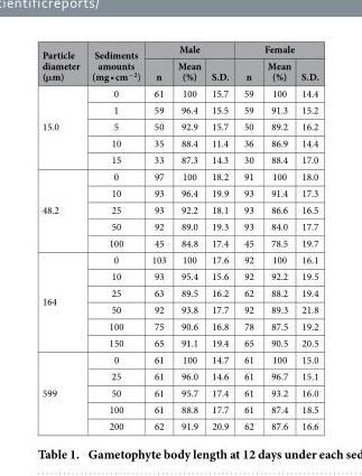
<table><thead><tr><td rowspan="2">Particle diameter (μm)</td><td rowspan="2">Sediments amounts (mg • cm<sup>−2</sup>)</td><td colspan="3">Male</td><td colspan="3">Female</td></tr><tr><td>n</td><td>Mean (%)</td><td>S.D.</td><td>n</td><td>Mean (%)</td><td>S.D.</td></tr></thead><tbody><tr><td rowspan="5">15.0</td><td>0</td><td>61</td><td>100</td><td>15.7</td><td>59</td><td>100</td><td>14.4</td></tr><tr><td>1</td><td>59</td><td>96.4</td><td>15.5</td><td>59</td><td>91.3</td><td>15.2</td></tr><tr><td>5</td><td>50</td><td>92.9</td><td>15.7</td><td>50</td><td>89.2</td><td>16.2</td></tr><tr><td>10</td><td>35</td><td>88.4</td><td>11.4</td><td>36</td><td>86.9</td><td>14.4</td></tr><tr><td>15</td><td>33</td><td>87.3</td><td>14.3</td><td>30</td><td>88.4</td><td>17.0</td></tr><tr><td rowspan="5">48.2</td><td>0</td><td>97</td><td>100</td><td>18.2</td><td>91</td><td>100</td><td>18.0</td></tr><tr><td>10</td><td>93</td><td>96.4</td><td>19.9</td><td>93</td><td>91.4</td><td>17.3</td></tr><tr><td>25</td><td>93</td><td>92.2</td><td>18.1</td><td>93</td><td>86.6</td><td>16.5</td></tr><tr><td>50</td><td>92</td><td>89.0</td><td>19.3</td><td>93</td><td>84.0</td><td>17.7</td></tr><tr><td>100</td><td>45</td><td>84.8</td><td>17.4</td><td>45</td><td>78.5</td><td>19.7</td></tr><tr><td rowspan="6">164</td><td>0</td><td>103</td><td>100</td><td>17.6</td><td>92</td><td>100</td><td>16.1</td></tr><tr><td>10</td><td>93</td><td>95.4</td><td>15.6</td><td>92</td><td>92.2</td><td>19.5</td></tr><tr><td>25</td><td>63</td><td>89.5</td><td>16.2</td><td>62</td><td>88.2</td><td>19.4</td></tr><tr><td>50</td><td>92</td><td>93.8</td><td>17.7</td><td>92</td><td>89.3</td><td>21.8</td></tr><tr><td>100</td><td>75</td><td>90.6</td><td>16.8</td><td>78</td><td>87.5</td><td>19.2</td></tr><tr><td>150</td><td>65</td><td>91.1</td><td>19.4</td><td>65</td><td>90.5</td><td>20.5</td></tr><tr><td rowspan="5">599</td><td>0</td><td>61</td><td>100</td><td>14.7</td><td>61</td><td>100</td><td>15.0</td></tr><tr><td>25</td><td>61</td><td>96.0</td><td>14.6</td><td>61</td><td>96.7</td><td>15.1</td></tr><tr><td>50</td><td>61</td><td>95.7</td><td>17.4</td><td>61</td><td>93.2</td><td>16.0</td></tr><tr><td>100</td><td>61</td><td>88.8</td><td>17.7</td><td>61</td><td>87.4</td><td>18.5</td></tr><tr><td>200</td><td>62</td><td>91.9</td><td>20.9</td><td>62</td><td>87.6</td><td>16.6</td></tr></tbody></table>